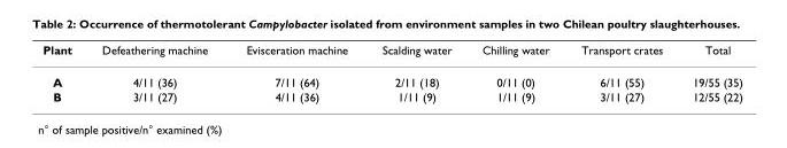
<table><thead><tr><td>Plant</td><td>Defeathering machine</td><td>Evisceration machine</td><td>Scalding water</td><td>Chilling water</td><td>Transport crates</td><td>Total</td></tr></thead><tbody><tr><td>A</td><td>4/11 (36)</td><td>7/11 (64)</td><td>2/11 (18)</td><td>0/11 (0)</td><td>6/11 (55)</td><td>19/55 (35)</td></tr><tr><td>B</td><td>3/11 (27)</td><td>4/11 (36)</td><td>1/11 (9)</td><td>1/11 (9)</td><td>3/11 (27)</td><td>12/55 (22)</td></tr></tbody></table>